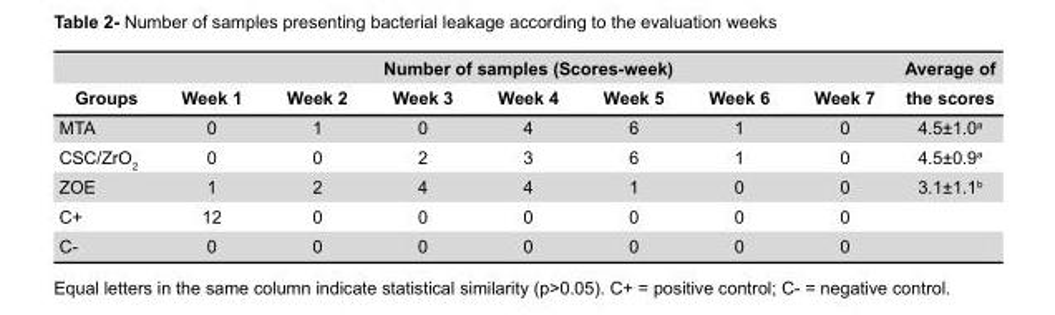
<table><thead><tr><td rowspan="2">Groups</td><td colspan="7">Number of samples (Scores-week)</td><td rowspan="2">Average of the scores</td></tr><tr><td>Week 1</td><td>Week 2</td><td>Week 3</td><td>Week 4</td><td>Week 5</td><td>Week 6</td><td>Week 7</td></tr></thead><tbody><tr><td>MTA</td><td>0</td><td>1</td><td>0</td><td>4</td><td>6</td><td>1</td><td>0</td><td>4.5±1.0<sup>a</sup></td></tr><tr><td>CSC/ZrO<sub>2</sub></td><td>0</td><td>0</td><td>2</td><td>3</td><td>6</td><td>1</td><td>0</td><td>4.5±0.9<sup>a</sup></td></tr><tr><td>ZOE</td><td>1</td><td>2</td><td>4</td><td>4</td><td>1</td><td>0</td><td>0</td><td>3.1±1.1<sup>b</sup></td></tr><tr><td>C+</td><td>12</td><td>0</td><td>0</td><td>0</td><td>0</td><td>0</td><td>0</td><td></td></tr><tr><td>C-</td><td>0</td><td>0</td><td>0</td><td>0</td><td>0</td><td>0</td><td>0</td><td></td></tr></tbody></table>